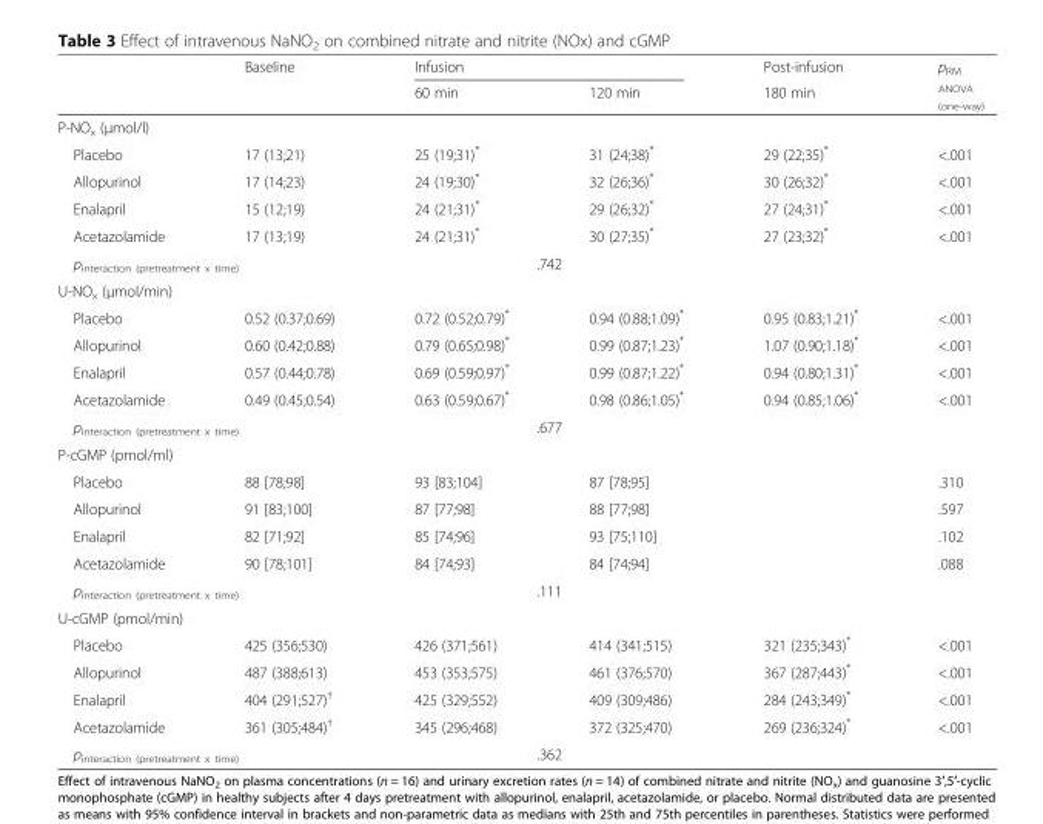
<table><thead><tr><td rowspan="2"></td><td rowspan="2">Baseline</td><td colspan="2">Infusion</td><td rowspan="2">Post-infusion 180 min</td><td rowspan="2">p<sub>RM ANOVA (one-way)</sub></td></tr><tr><td>60 min</td><td>120 min</td></tr></thead><tbody><tr><td colspan="6">P-NO<sub>x</sub> (μmol/l)</td></tr><tr><td>Placebo</td><td>17 (13;21)</td><td>25 (19;31)*</td><td>31 (24;38)*</td><td>29 (22;35)*</td><td>&lt;.001</td></tr><tr><td>Allopurinol</td><td>17 (14;23)</td><td>24 (19;30)*</td><td>32 (26;36)*</td><td>30 (26;32)*</td><td>&lt;.001</td></tr><tr><td>Enalapril</td><td>15 (12;19)</td><td>24 (21;31)*</td><td>29 (26;32)*</td><td>27 (24;31)*</td><td>&lt;.001</td></tr><tr><td>Acetazolamide</td><td>17 (13;19)</td><td>24 (21;31)*</td><td>30 (27;35)*</td><td>27 (23;32)*</td><td>&lt;.001</td></tr><tr><td colspan="2">p<sub>interaction (pretreatment x time)</sub></td><td colspan="2">.742</td><td></td><td></td></tr><tr><td colspan="6">U-NO<sub>x</sub> (μmol/min)</td></tr><tr><td>Placebo</td><td>0.52 (0.37;0.69)</td><td>0.72 (0.52;0.79)*</td><td>0.94 (0.88;1.09)*</td><td>0.95 (0.83;1.21)*</td><td>&lt;.001</td></tr><tr><td>Allopurinol</td><td>0.60 (0.42;0.88)</td><td>0.79 (0.65;0.98)*</td><td>0.99 (0.87;1.23)*</td><td>1.07 (0.90;1.18)*</td><td>&lt;.001</td></tr><tr><td>Enalapril</td><td>0.57 (0.44;0.78)</td><td>0.69 (0.59;0.97)*</td><td>0.99 (0.87;1.22)*</td><td>0.94 (0.80;1.31)*</td><td>&lt;.001</td></tr><tr><td>Acetazolamide</td><td>0.49 (0.45;0.54)</td><td>0.63 (0.59;0.67)*</td><td>0.98 (0.86;1.05)*</td><td>0.94 (0.85;1.06)*</td><td>&lt;.001</td></tr><tr><td colspan="2">p<sub>interaction (pretreatment x time)</sub></td><td colspan="2">.677</td><td></td><td></td></tr><tr><td colspan="6">P-cGMP (pmol/ml)</td></tr><tr><td>Placebo</td><td>88 [78;98]</td><td>93 [83;104]</td><td>87 [78;95]</td><td></td><td>.310</td></tr><tr><td>Allopurinol</td><td>91 [83;100]</td><td>87 [77;98]</td><td>88 [77;98]</td><td></td><td>.597</td></tr><tr><td>Enalapril</td><td>82 [71;92]</td><td>85 [74;96]</td><td>93 [75;110]</td><td></td><td>.102</td></tr><tr><td>Acetazolamide</td><td>90 [78;101]</td><td>84 [74;93]</td><td>84 [74;94]</td><td></td><td>.088</td></tr><tr><td colspan="2">p<sub>interaction (pretreatment x time)</sub></td><td colspan="2">.111</td><td></td><td></td></tr><tr><td colspan="6">U-cGMP (pmol/min)</td></tr><tr><td>Placebo</td><td>425 (356;530)</td><td>426 (371;561)</td><td>414 (341;515)</td><td>321 (235;343)*</td><td>&lt;.001</td></tr><tr><td>Allopurinol</td><td>487 (388;613)</td><td>453 (353;575)</td><td>461 (376;570)</td><td>367 (287;443)*</td><td>&lt;.001</td></tr><tr><td>Enalapril</td><td>404 (291;527)<sup>†</sup></td><td>425 (329;552)</td><td>409 (309;486)</td><td>284 (243;349)*</td><td>&lt;.001</td></tr><tr><td>Acetazolamide</td><td>361 (305;484)<sup>†</sup></td><td>345 (296;468)</td><td>372 (325;470)</td><td>269 (236;324)*</td><td>&lt;.001</td></tr><tr><td colspan="2">p<sub>interaction (pretreatment x time)</sub></td><td colspan="2">.362</td><td></td><td></td></tr></tbody></table>